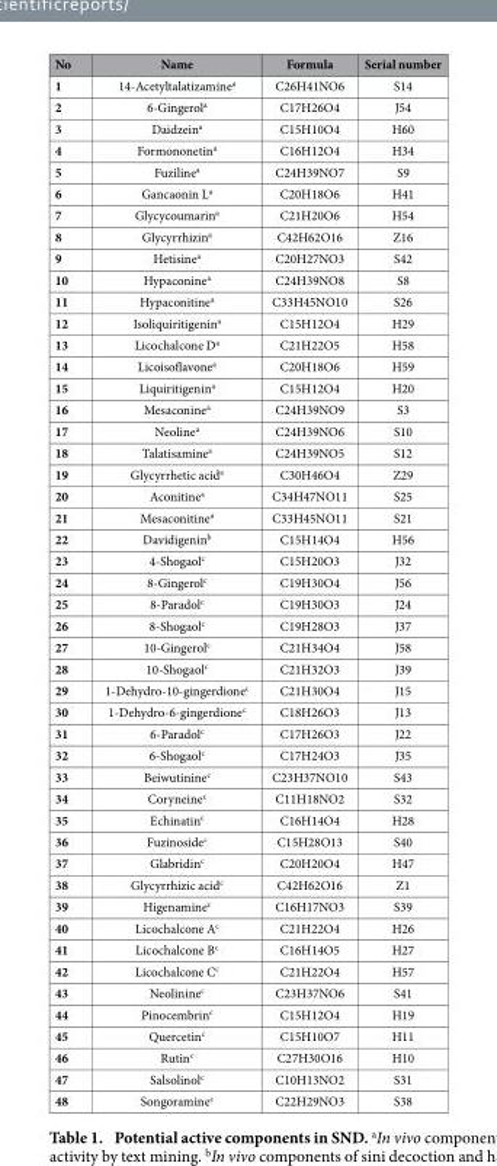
<table><thead><tr><td>No</td><td>Name</td><td>Formula</td><td>Serial number</td></tr></thead><tbody><tr><td>1</td><td>14-Acetyltalatizamine<sup>a</sup></td><td>C26H41NO6</td><td>S14</td></tr><tr><td>2</td><td>6-Gingerol<sup>a</sup></td><td>C17H26O4</td><td>J54</td></tr><tr><td>3</td><td>Daidzein<sup>a</sup></td><td>C15H10O4</td><td>H60</td></tr><tr><td>4</td><td>Formononetin<sup>a</sup></td><td>C16H12O4</td><td>H34</td></tr><tr><td>5</td><td>Fuziline<sup>a</sup></td><td>C24H39NO7</td><td>S9</td></tr><tr><td>6</td><td>Gancaonin L<sup>a</sup></td><td>C20H18O6</td><td>H41</td></tr><tr><td>7</td><td>Glycycoumarin<sup>a</sup></td><td>C21H20O6</td><td>H54</td></tr><tr><td>8</td><td>Glycyrrhizin<sup>a</sup></td><td>C42H62O16</td><td>Z16</td></tr><tr><td>9</td><td>Hetisine<sup>a</sup></td><td>C20H27NO3</td><td>S42</td></tr><tr><td>10</td><td>Hypaconine<sup>a</sup></td><td>C24H39NO8</td><td>S8</td></tr><tr><td>11</td><td>Hypaconitine<sup>a</sup></td><td>C33H45NO10</td><td>S26</td></tr><tr><td>12</td><td>Isoliquiritigenin<sup>a</sup></td><td>C15H12O4</td><td>H29</td></tr><tr><td>13</td><td>Licochalcone D<sup>a</sup></td><td>C21H22O5</td><td>H58</td></tr><tr><td>14</td><td>Licoisoflavone<sup>a</sup></td><td>C20H18O6</td><td>H59</td></tr><tr><td>15</td><td>Liquiritigenin<sup>a</sup></td><td>C15H12O4</td><td>H20</td></tr><tr><td>16</td><td>Mesaconine<sup>a</sup></td><td>C24H39NO9</td><td>S3</td></tr><tr><td>17</td><td>Neoline<sup>a</sup></td><td>C24H39NO6</td><td>S10</td></tr><tr><td>18</td><td>Talatisamine<sup>a</sup></td><td>C24H39NO5</td><td>S12</td></tr><tr><td>19</td><td>Glycyrrhetic acid<sup>a</sup></td><td>C30H46O4</td><td>Z29</td></tr><tr><td>20</td><td>Aconitine<sup>a</sup></td><td>C34H47NO11</td><td>S25</td></tr><tr><td>21</td><td>Mesaconitine<sup>a</sup></td><td>C33H45NO11</td><td>S21</td></tr><tr><td>22</td><td>Davidigenin<sup>b</sup></td><td>C15H14O4</td><td>H56</td></tr><tr><td>23</td><td>4-Shogaol<sup>c</sup></td><td>C15H20O3</td><td>J32</td></tr><tr><td>24</td><td>8-Gingerol<sup>c</sup></td><td>C19H30O4</td><td>J56</td></tr><tr><td>25</td><td>8-Paradol<sup>c</sup></td><td>C19H30O3</td><td>J24</td></tr><tr><td>26</td><td>8-Shogaol<sup>c</sup></td><td>C19H28O3</td><td>J37</td></tr><tr><td>27</td><td>10-Gingerol<sup>c</sup></td><td>C21H34O4</td><td>J58</td></tr><tr><td>28</td><td>10-Shogaol<sup>c</sup></td><td>C21H32O3</td><td>J39</td></tr><tr><td>29</td><td>1-Dehydro-10-gingerdione<sup>c</sup></td><td>C21H30O4</td><td>J15</td></tr><tr><td>30</td><td>1-Dehydro-6-gingerdione<sup>c</sup></td><td>C18H26O3</td><td>J13</td></tr><tr><td>31</td><td>6-Paradol<sup>c</sup></td><td>C17H26O3</td><td>J22</td></tr><tr><td>32</td><td>6-Shogaol<sup>c</sup></td><td>C17H24O3</td><td>J35</td></tr><tr><td>33</td><td>Beiwutinine<sup>c</sup></td><td>C23H37NO10</td><td>S43</td></tr><tr><td>34</td><td>Coryneine<sup>c</sup></td><td>C11H18NO2</td><td>S32</td></tr><tr><td>35</td><td>Echinatin<sup>c</sup></td><td>C16H14O4</td><td>H28</td></tr><tr><td>36</td><td>Fuzinoside<sup>c</sup></td><td>C15H28O13</td><td>S40</td></tr><tr><td>37</td><td>Glabridin<sup>c</sup></td><td>C20H20O4</td><td>H47</td></tr><tr><td>38</td><td>Glycyrrhizic acid<sup>c</sup></td><td>C42H62O16</td><td>Z1</td></tr><tr><td>39</td><td>Higenamine<sup>c</sup></td><td>C16H17NO3</td><td>S39</td></tr><tr><td>40</td><td>Licochalcone A<sup>c</sup></td><td>C21H22O4</td><td>H26</td></tr><tr><td>41</td><td>Licochalcone B<sup>c</sup></td><td>C16H14O5</td><td>H27</td></tr><tr><td>42</td><td>Licochalcone C<sup>c</sup></td><td>C21H22O4</td><td>H57</td></tr><tr><td>43</td><td>Neolinine<sup>c</sup></td><td>C23H37NO6</td><td>S41</td></tr><tr><td>44</td><td>Pinocembrin<sup>c</sup></td><td>C15H12O4</td><td>H19</td></tr><tr><td>45</td><td>Quercetin<sup>c</sup></td><td>C15H10O7</td><td>H11</td></tr><tr><td>46</td><td>Rutin<sup>c</sup></td><td>C27H30O16</td><td>H10</td></tr><tr><td>47</td><td>Salsolinol<sup>c</sup></td><td>C10H13NO2</td><td>S31</td></tr><tr><td>48</td><td>Songoramine<sup>c</sup></td><td>C22H29NO3</td><td>S38</td></tr></tbody></table>